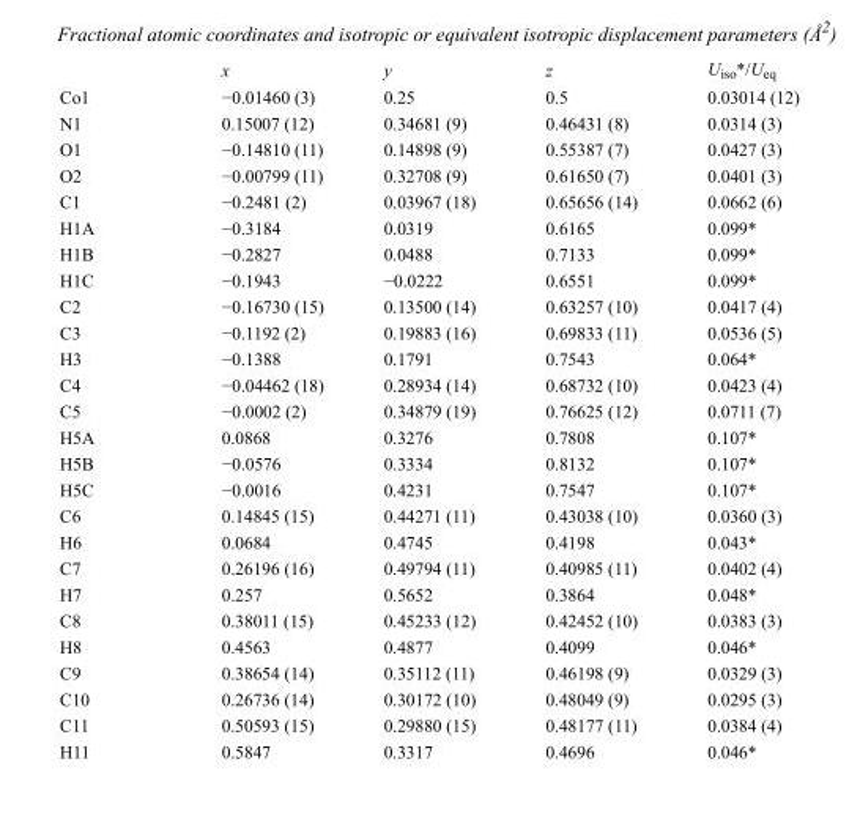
<table><thead><tr><td></td><td>x</td><td>y</td><td>z</td><td>U<sub>iso</sub>*/U<sub>eq</sub></td></tr></thead><tbody><tr><td>Co1</td><td>−0.01460 (3)</td><td>0.25</td><td>0.5</td><td>0.03014 (12)</td></tr><tr><td>N1</td><td>0.15007 (12)</td><td>0.34681 (9)</td><td>0.46431 (8)</td><td>0.0314 (3)</td></tr><tr><td>O1</td><td>−0.14810 (11)</td><td>0.14898 (9)</td><td>0.55387 (7)</td><td>0.0427 (3)</td></tr><tr><td>O2</td><td>−0.00799 (11)</td><td>0.32708 (9)</td><td>0.61650 (7)</td><td>0.0401 (3)</td></tr><tr><td>C1</td><td>−0.2481 (2)</td><td>0.03967 (18)</td><td>0.65656 (14)</td><td>0.0662 (6)</td></tr><tr><td>H1A</td><td>−0.3184</td><td>0.0319</td><td>0.6165</td><td>0.099*</td></tr><tr><td>H1B</td><td>−0.2827</td><td>0.0488</td><td>0.7133</td><td>0.099*</td></tr><tr><td>H1C</td><td>−0.1943</td><td>−0.0222</td><td>0.6551</td><td>0.099*</td></tr><tr><td>C2</td><td>−0.16730 (15)</td><td>0.13500 (14)</td><td>0.63257 (10)</td><td>0.0417 (4)</td></tr><tr><td>C3</td><td>−0.1192 (2)</td><td>0.19883 (16)</td><td>0.69833 (11)</td><td>0.0536 (5)</td></tr><tr><td>H3</td><td>−0.1388</td><td>0.1791</td><td>0.7543</td><td>0.064*</td></tr><tr><td>C4</td><td>−0.04462 (18)</td><td>0.28934 (14)</td><td>0.68732 (10)</td><td>0.0423 (4)</td></tr><tr><td>C5</td><td>−0.0002 (2)</td><td>0.34879 (19)</td><td>0.76625 (12)</td><td>0.0711 (7)</td></tr><tr><td>H5A</td><td>0.0868</td><td>0.3276</td><td>0.7808</td><td>0.107*</td></tr><tr><td>H5B</td><td>−0.0576</td><td>0.3334</td><td>0.8132</td><td>0.107*</td></tr><tr><td>H5C</td><td>−0.0016</td><td>0.4231</td><td>0.7547</td><td>0.107*</td></tr><tr><td>C6</td><td>0.14845 (15)</td><td>0.44271 (11)</td><td>0.43038 (10)</td><td>0.0360 (3)</td></tr><tr><td>H6</td><td>0.0684</td><td>0.4745</td><td>0.4198</td><td>0.043*</td></tr><tr><td>C7</td><td>0.26196 (16)</td><td>0.49794 (11)</td><td>0.40985 (11)</td><td>0.0402 (4)</td></tr><tr><td>H7</td><td>0.257</td><td>0.5652</td><td>0.3864</td><td>0.048*</td></tr><tr><td>C8</td><td>0.38011 (15)</td><td>0.45233 (12)</td><td>0.42452 (10)</td><td>0.0383 (3)</td></tr><tr><td>H8</td><td>0.4563</td><td>0.4877</td><td>0.4099</td><td>0.046*</td></tr><tr><td>C9</td><td>0.38654 (14)</td><td>0.35112 (11)</td><td>0.46198 (9)</td><td>0.0329 (3)</td></tr><tr><td>C10</td><td>0.26736 (14)</td><td>0.30172 (10)</td><td>0.48049 (9)</td><td>0.0295 (3)</td></tr><tr><td>C11</td><td>0.50593 (15)</td><td>0.29880 (15)</td><td>0.48177 (11)</td><td>0.0384 (4)</td></tr><tr><td>H11</td><td>0.5847</td><td>0.3317</td><td>0.4696</td><td>0.046*</td></tr></tbody></table>